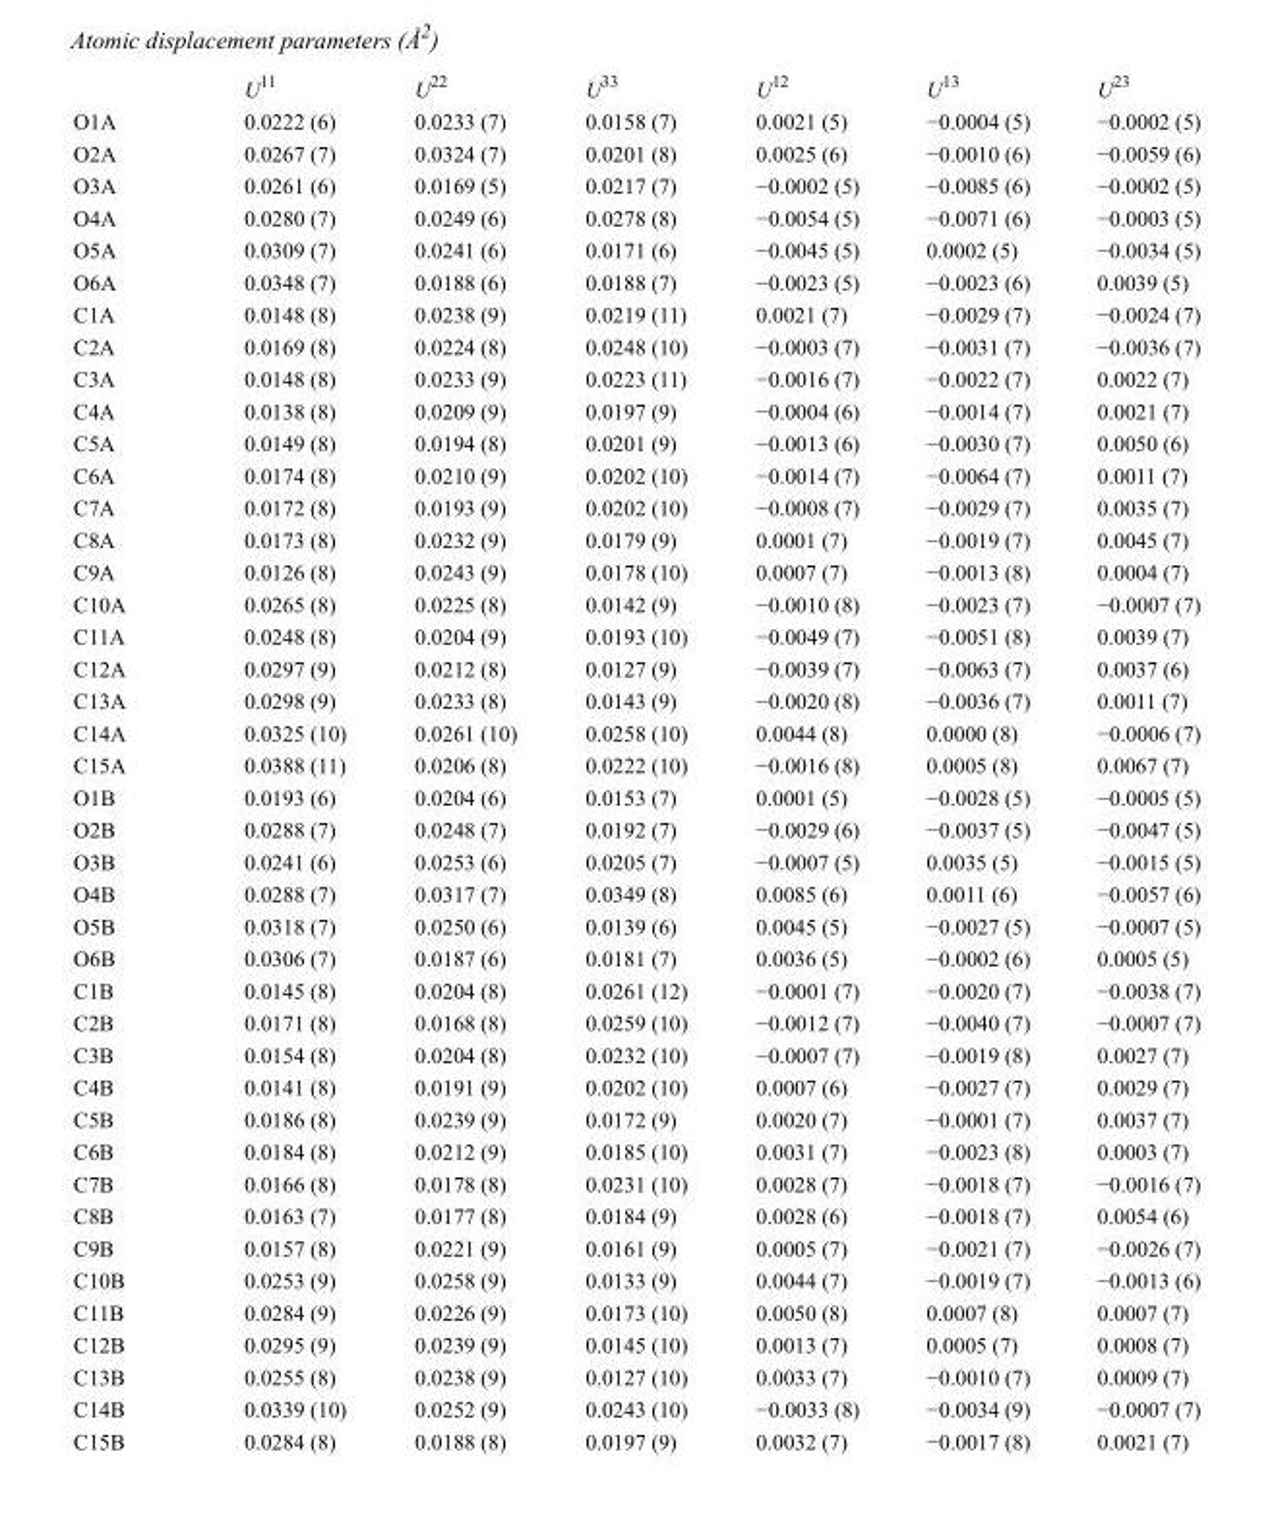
<table><thead><tr><td></td><td>U<sup>11</sup></td><td>U<sup>22</sup></td><td>U<sup>33</sup></td><td>U<sup>12</sup></td><td>U<sup>13</sup></td><td>U<sup>23</sup></td></tr></thead><tbody><tr><td>O1A</td><td>0.0222 (6)</td><td>0.0233 (7)</td><td>0.0158 (7)</td><td>0.0021 (5)</td><td>−0.0004 (5)</td><td>−0.0002 (5)</td></tr><tr><td>O2A</td><td>0.0267 (7)</td><td>0.0324 (7)</td><td>0.0201 (8)</td><td>0.0025 (6)</td><td>−0.0010 (6)</td><td>−0.0059 (6)</td></tr><tr><td>O3A</td><td>0.0261 (6)</td><td>0.0169 (5)</td><td>0.0217 (7)</td><td>−0.0002 (5)</td><td>−0.0085 (6)</td><td>−0.0002 (5)</td></tr><tr><td>O4A</td><td>0.0280 (7)</td><td>0.0249 (6)</td><td>0.0278 (8)</td><td>−0.0054 (5)</td><td>−0.0071 (6)</td><td>−0.0003 (5)</td></tr><tr><td>O5A</td><td>0.0309 (7)</td><td>0.0241 (6)</td><td>0.0171 (6)</td><td>−0.0045 (5)</td><td>0.0002 (5)</td><td>−0.0034 (5)</td></tr><tr><td>O6A</td><td>0.0348 (7)</td><td>0.0188 (6)</td><td>0.0188 (7)</td><td>−0.0023 (5)</td><td>−0.0023 (6)</td><td>0.0039 (5)</td></tr><tr><td>C1A</td><td>0.0148 (8)</td><td>0.0238 (9)</td><td>0.0219 (11)</td><td>0.0021 (7)</td><td>−0.0029 (7)</td><td>−0.0024 (7)</td></tr><tr><td>C2A</td><td>0.0169 (8)</td><td>0.0224 (8)</td><td>0.0248 (10)</td><td>−0.0003 (7)</td><td>−0.0031 (7)</td><td>−0.0036 (7)</td></tr><tr><td>C3A</td><td>0.0148 (8)</td><td>0.0233 (9)</td><td>0.0223 (11)</td><td>−0.0016 (7)</td><td>−0.0022 (7)</td><td>0.0022 (7)</td></tr><tr><td>C4A</td><td>0.0138 (8)</td><td>0.0209 (9)</td><td>0.0197 (9)</td><td>−0.0004 (6)</td><td>−0.0014 (7)</td><td>0.0021 (7)</td></tr><tr><td>C5A</td><td>0.0149 (8)</td><td>0.0194 (8)</td><td>0.0201 (9)</td><td>−0.0013 (6)</td><td>−0.0030 (7)</td><td>0.0050 (6)</td></tr><tr><td>C6A</td><td>0.0174 (8)</td><td>0.0210 (9)</td><td>0.0202 (10)</td><td>−0.0014 (7)</td><td>−0.0064 (7)</td><td>0.0011 (7)</td></tr><tr><td>C7A</td><td>0.0172 (8)</td><td>0.0193 (9)</td><td>0.0202 (10)</td><td>−0.0008 (7)</td><td>−0.0029 (7)</td><td>0.0035 (7)</td></tr><tr><td>C8A</td><td>0.0173 (8)</td><td>0.0232 (9)</td><td>0.0179 (9)</td><td>0.0001 (7)</td><td>−0.0019 (7)</td><td>0.0045 (7)</td></tr><tr><td>C9A</td><td>0.0126 (8)</td><td>0.0243 (9)</td><td>0.0178 (10)</td><td>0.0007 (7)</td><td>−0.0013 (8)</td><td>0.0004 (7)</td></tr><tr><td>C10A</td><td>0.0265 (8)</td><td>0.0225 (8)</td><td>0.0142 (9)</td><td>−0.0010 (8)</td><td>−0.0023 (7)</td><td>−0.0007 (7)</td></tr><tr><td>C11A</td><td>0.0248 (8)</td><td>0.0204 (9)</td><td>0.0193 (10)</td><td>−0.0049 (7)</td><td>−0.0051 (8)</td><td>0.0039 (7)</td></tr><tr><td>C12A</td><td>0.0297 (9)</td><td>0.0212 (8)</td><td>0.0127 (9)</td><td>−0.0039 (7)</td><td>−0.0063 (7)</td><td>0.0037 (6)</td></tr><tr><td>C13A</td><td>0.0298 (9)</td><td>0.0233 (8)</td><td>0.0143 (9)</td><td>−0.0020 (8)</td><td>−0.0036 (7)</td><td>0.0011 (7)</td></tr><tr><td>C14A</td><td>0.0325 (10)</td><td>0.0261 (10)</td><td>0.0258 (10)</td><td>0.0044 (8)</td><td>0.0000 (8)</td><td>−0.0006 (7)</td></tr><tr><td>C15A</td><td>0.0388 (11)</td><td>0.0206 (8)</td><td>0.0222 (10)</td><td>−0.0016 (8)</td><td>0.0005 (8)</td><td>0.0067 (7)</td></tr><tr><td>O1B</td><td>0.0193 (6)</td><td>0.0204 (6)</td><td>0.0153 (7)</td><td>0.0001 (5)</td><td>−0.0028 (5)</td><td>−0.0005 (5)</td></tr><tr><td>O2B</td><td>0.0288 (7)</td><td>0.0248 (7)</td><td>0.0192 (7)</td><td>−0.0029 (6)</td><td>−0.0037 (5)</td><td>−0.0047 (5)</td></tr><tr><td>O3B</td><td>0.0241 (6)</td><td>0.0253 (6)</td><td>0.0205 (7)</td><td>−0.0007 (5)</td><td>0.0035 (5)</td><td>−0.0015 (5)</td></tr><tr><td>O4B</td><td>0.0288 (7)</td><td>0.0317 (7)</td><td>0.0349 (8)</td><td>0.0085 (6)</td><td>0.0011 (6)</td><td>−0.0057 (6)</td></tr><tr><td>O5B</td><td>0.0318 (7)</td><td>0.0250 (6)</td><td>0.0139 (6)</td><td>0.0045 (5)</td><td>−0.0027 (5)</td><td>−0.0007 (5)</td></tr><tr><td>O6B</td><td>0.0306 (7)</td><td>0.0187 (6)</td><td>0.0181 (7)</td><td>0.0036 (5)</td><td>−0.0002 (6)</td><td>0.0005 (5)</td></tr><tr><td>C1B</td><td>0.0145 (8)</td><td>0.0204 (8)</td><td>0.0261 (12)</td><td>−0.0001 (7)</td><td>−0.0020 (7)</td><td>−0.0038 (7)</td></tr><tr><td>C2B</td><td>0.0171 (8)</td><td>0.0168 (8)</td><td>0.0259 (10)</td><td>−0.0012 (7)</td><td>−0.0040 (7)</td><td>−0.0007 (7)</td></tr><tr><td>C3B</td><td>0.0154 (8)</td><td>0.0204 (8)</td><td>0.0232 (10)</td><td>−0.0007 (7)</td><td>−0.0019 (8)</td><td>0.0027 (7)</td></tr><tr><td>C4B</td><td>0.0141 (8)</td><td>0.0191 (9)</td><td>0.0202 (10)</td><td>0.0007 (6)</td><td>−0.0027 (7)</td><td>0.0029 (7)</td></tr><tr><td>C5B</td><td>0.0186 (8)</td><td>0.0239 (9)</td><td>0.0172 (9)</td><td>0.0020 (7)</td><td>−0.0001 (7)</td><td>0.0037 (7)</td></tr><tr><td>C6B</td><td>0.0184 (8)</td><td>0.0212 (9)</td><td>0.0185 (10)</td><td>0.0031 (7)</td><td>−0.0023 (8)</td><td>0.0003 (7)</td></tr><tr><td>C7B</td><td>0.0166 (8)</td><td>0.0178 (8)</td><td>0.0231 (10)</td><td>0.0028 (7)</td><td>−0.0018 (7)</td><td>−0.0016 (7)</td></tr><tr><td>C8B</td><td>0.0163 (7)</td><td>0.0177 (8)</td><td>0.0184 (9)</td><td>0.0028 (6)</td><td>−0.0018 (7)</td><td>0.0054 (6)</td></tr><tr><td>C9B</td><td>0.0157 (8)</td><td>0.0221 (9)</td><td>0.0161 (9)</td><td>0.0005 (7)</td><td>−0.0021 (7)</td><td>−0.0026 (7)</td></tr><tr><td>C10B</td><td>0.0253 (9)</td><td>0.0258 (9)</td><td>0.0133 (9)</td><td>0.0044 (7)</td><td>−0.0019 (7)</td><td>−0.0013 (6)</td></tr><tr><td>C11B</td><td>0.0284 (9)</td><td>0.0226 (9)</td><td>0.0173 (10)</td><td>0.0050 (8)</td><td>0.0007 (8)</td><td>0.0007 (7)</td></tr><tr><td>C12B</td><td>0.0295 (9)</td><td>0.0239 (9)</td><td>0.0145 (10)</td><td>0.0013 (7)</td><td>0.0005 (7)</td><td>0.0008 (7)</td></tr><tr><td>C13B</td><td>0.0255 (8)</td><td>0.0238 (9)</td><td>0.0127 (10)</td><td>0.0033 (7)</td><td>−0.0010 (7)</td><td>0.0009 (7)</td></tr><tr><td>C14B</td><td>0.0339 (10)</td><td>0.0252 (9)</td><td>0.0243 (10)</td><td>−0.0033 (8)</td><td>−0.0034 (9)</td><td>−0.0007 (7)</td></tr><tr><td>C15B</td><td>0.0284 (8)</td><td>0.0188 (8)</td><td>0.0197 (9)</td><td>0.0032 (7)</td><td>−0.0017 (8)</td><td>0.0021 (7)</td></tr></tbody></table>